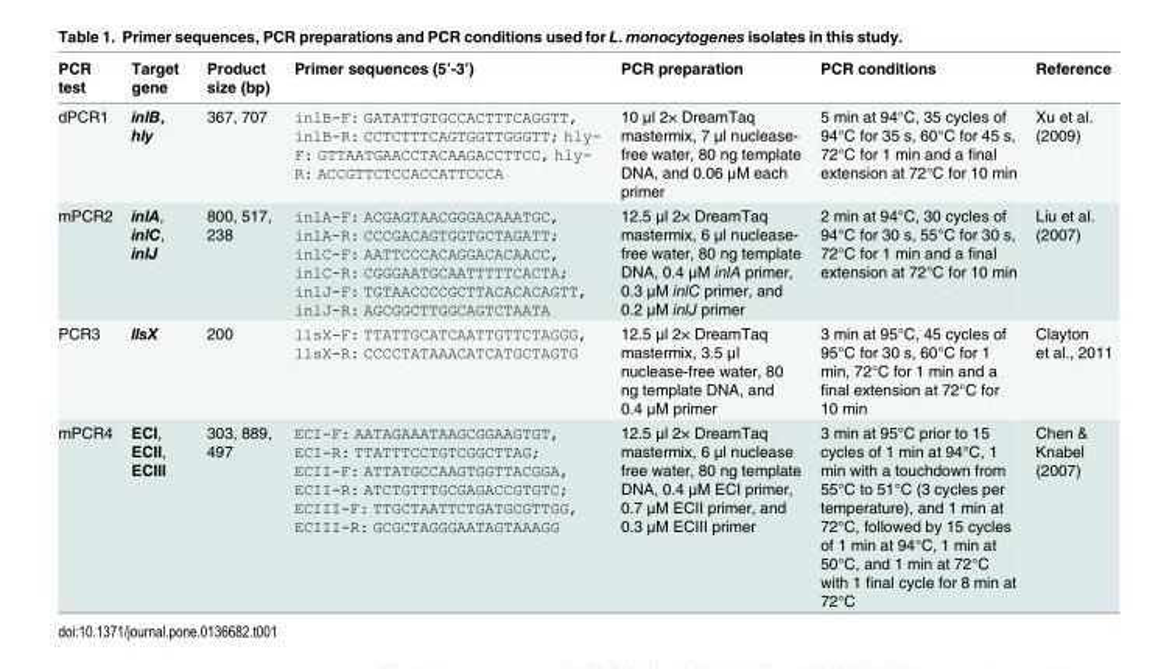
<table><thead><tr><td>PCR test</td><td>Target gene</td><td>Product size (bp)</td><td>Primer sequences (5’-3’)</td><td>PCR preparation</td><td>PCR conditions</td><td>Reference</td></tr></thead><tbody><tr><td>dPCR1</td><td>inlB, hly</td><td>367, 707</td><td>inlB-F: GATATTGTGCCACTTTCAGGTT, inlB-R: CCTCTTTCAGTGGTTGGGTT; hly- F: GTTAATGAACCTACAAGACCTTCC, hly- R: ACCGTTCTCCACCATTCCCA</td><td>10 μl 2× DreamTaq mastermix, 7 μl nuclease- free water, 80 ng template DNA, and 0.06 μM each primer</td><td>5 min at 94°C, 35 cycles of 94°C for 35 s, 60°C for 45 s, 72°C for 1 min and a final extension at 72°C for 10 min</td><td>Xu et al. (2009)</td></tr><tr><td>mPCR2</td><td>inlA, inlC, inlJ</td><td>800, 517, 238</td><td>inlA-F: ACGAGTAACGGGACAAATGC, inlA-R: CCCGACAGTGGTGCTAGATT; inlC-F: AATTCCCACAGGACACAACC, inlC-R: CGGGAATGCAATTTTTCACTA; inlJ-F: TGTAACCCCGCTTACACACAGTT, inlJ-R: AGCGGCTTGGCAGTCTAATA</td><td>12.5 μl 2× DreamTaq mastermix, 6 μl nuclease- free water, 80 ng template DNA, 0.4 μM inlA primer, 0.3 μM inlC primer, and 0.2 μM inlJ primer</td><td>2 min at 94°C, 30 cycles of 94°C for 30 s, 55°C for 30 s, 72°C for 1 min and a final extension at 72°C for 10 min</td><td>Liu et al. (2007)</td></tr><tr><td>PCR3</td><td>llsX</td><td>200</td><td>llsX-F: TTATTGCATCAATTGTTCTAGGG, llsX-R: CCCCTATAAACATCATGCTAGTG</td><td>12.5 μl 2× DreamTaq mastermix, 3.5 μl nuclease-free water, 80 ng template DNA, and 0.4 μM primer</td><td>3 min at 95°C, 45 cycles of 95°C for 30 s, 60°C for 1 min, 72°C for 1 min and a final extension at 72°C for 10 min</td><td>Clayton et al., 2011</td></tr><tr><td>mPCR4</td><td>ECI, ECII, ECIII</td><td>303, 889, 497</td><td>ECI-F: AATAGAAATAAGCGGAAGTGT, ECI-R: TTATTTCCTGTCGGCTTAG; ECII-F: ATTATGCCAAGTGGTTACGGA, ECII-R: ATCTGTTTGCGAGACCGTGTC; ECIII-F: TTGCTAATTCTGATGCGTTGG, ECIII-R: GCGCTAGGGAATAGTAAAGG</td><td>12.5 μl 2× DreamTaq mastermix, 6 μl nuclease free water, 80 ng template DNA, 0.4 μM ECI primer, 0.7 μM ECII primer, and 0.3 μM ECIII primer</td><td>3 min at 95°C prior to 15 cycles of 1 min at 94°C, 1 min with a touchdown from 55°C to 51°C (3 cycles per temperature), and 1 min at 72°C, followed by 15 cycles of 1 min at 94°C, 1 min at 50°C, and 1 min at 72°C with 1 final cycle for 8 min at 72°C</td><td>Chen &amp; Knabel (2007)</td></tr></tbody></table>